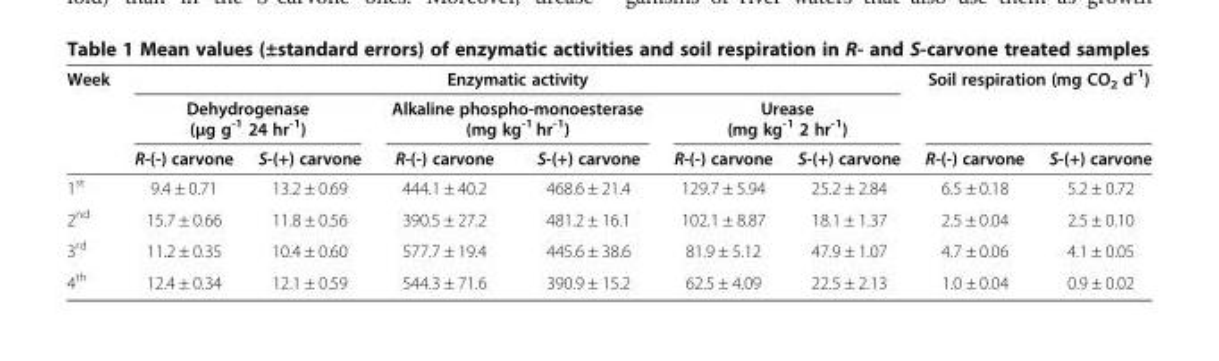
<table><thead><tr><td rowspan="3">Week</td><td colspan="6">Enzymatic activity</td><td rowspan="2" colspan="2">Soil respiration (mg CO<sub>2</sub> d<sup>-1</sup>)</td></tr><tr><td colspan="2">Dehydrogenase (μg g<sup>-1</sup> 24 hr<sup>-1</sup>)</td><td colspan="2">Alkaline phospho-monoesterase (mg kg<sup>-1</sup> hr<sup>-1</sup>)</td><td colspan="2">Urease (mg kg<sup>-1</sup> 2 hr<sup>-1</sup>)</td></tr><tr><td>R-(-) carvone</td><td>S-(+) carvone</td><td>R-(-) carvone</td><td>S-(+) carvone</td><td>R-(-) carvone</td><td>S-(+) carvone</td><td>R-(-) carvone</td><td>S-(+) carvone</td></tr></thead><tbody><tr><td>1<sup>st</sup></td><td>9.4 ± 0.71</td><td>13.2 ± 0.69</td><td>444.1 ± 40.2</td><td>468.6 ± 21.4</td><td>129.7 ± 5.94</td><td>25.2 ± 2.84</td><td>6.5 ± 0.18</td><td>5.2 ± 0.72</td></tr><tr><td>2<sup>nd</sup></td><td>15.7 ± 0.66</td><td>11.8 ± 0.56</td><td>390.5 ± 27.2</td><td>481.2 ± 16.1</td><td>102.1 ± 8.87</td><td>18.1 ± 1.37</td><td>2.5 ± 0.04</td><td>2.5 ± 0.10</td></tr><tr><td>3<sup>rd</sup></td><td>11.2 ± 0.35</td><td>10.4 ± 0.60</td><td>577.7 ± 19.4</td><td>445.6 ± 38.6</td><td>81.9 ± 5.12</td><td>47.9 ± 1.07</td><td>4.7 ± 0.06</td><td>4.1 ± 0.05</td></tr><tr><td>4<sup>th</sup></td><td>12.4 ± 0.34</td><td>12.1 ± 0.59</td><td>544.3 ± 71.6</td><td>390.9 ± 15.2</td><td>62.5 ± 4.09</td><td>22.5 ± 2.13</td><td>1.0 ± 0.04</td><td>0.9 ± 0.02</td></tr></tbody></table>